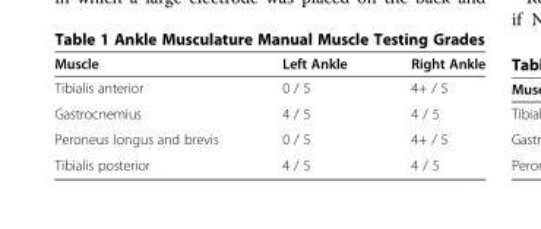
<table><thead><tr><td>Muscle</td><td>Left Ankle</td><td>Right Ankle</td></tr></thead><tbody><tr><td>Tibialis anterior</td><td>0 / 5</td><td>4+ / 5</td></tr><tr><td>Gastrocnemius</td><td>4 / 5</td><td>4 / 5</td></tr><tr><td>Peroneus longus and brevis</td><td>0 / 5</td><td>4+ / 5</td></tr><tr><td>Tibialis posterior</td><td>4 / 5</td><td>4 / 5</td></tr></tbody></table>